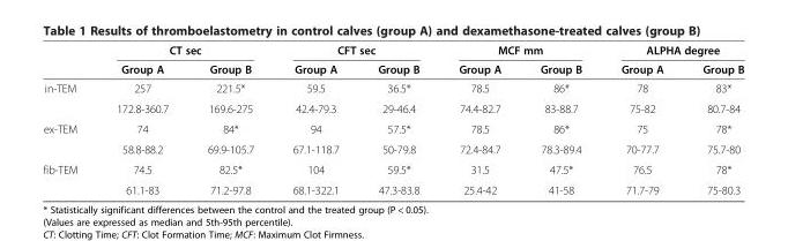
<table><thead><tr><td rowspan="2"></td><td colspan="2">CT sec</td><td colspan="2">CFT sec</td><td colspan="2">MCF mm</td><td colspan="2">ALPHA degree</td></tr><tr><td>Group A</td><td>Group B</td><td>Group A</td><td>Group B</td><td>Group A</td><td>Group B</td><td>Group A</td><td>Group B</td></tr></thead><tbody><tr><td rowspan="2">in-TEM</td><td>257</td><td>221.5*</td><td>59.5</td><td>36.5*</td><td>78.5</td><td>86*</td><td>78</td><td>83*</td></tr><tr><td>172.8-360.7</td><td>169.6-275</td><td>42.4-79.3</td><td>29-46.4</td><td>74.4-82.7</td><td>83-88.7</td><td>75-82</td><td>80.7-84</td></tr><tr><td rowspan="2">ex-TEM</td><td>74</td><td>84*</td><td>94</td><td>57.5*</td><td>78.5</td><td>86*</td><td>75</td><td>78*</td></tr><tr><td>58.8-88.2</td><td>69.9-105.7</td><td>67.1-118.7</td><td>50-79.8</td><td>72.4-84.7</td><td>78.3-89.4</td><td>70-77.7</td><td>75.7-80</td></tr><tr><td rowspan="2">fib-TEM</td><td>74.5</td><td>82.5*</td><td>104</td><td>59.5*</td><td>31.5</td><td>47.5*</td><td>76.5</td><td>78*</td></tr><tr><td>61.1-83</td><td>71.2-97.8</td><td>68.1-322.1</td><td>47.3-83.8</td><td>25.4-42</td><td>41-58</td><td>71.7-79</td><td>75-80.3</td></tr></tbody></table>